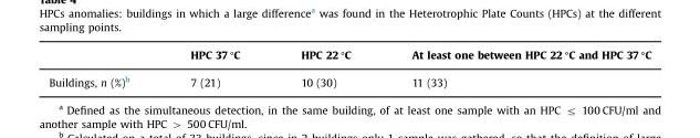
<table><thead><tr><td></td><td>HPC 37 °C</td><td>HPC 22 °C</td><td>At least one between HPC 22 °C and HPC 37 °C</td></tr></thead><tbody><tr><td>Buildings, n (%)<sup>b</sup></td><td>7 (21)</td><td>10 (30)</td><td>11 (33)</td></tr></tbody></table>